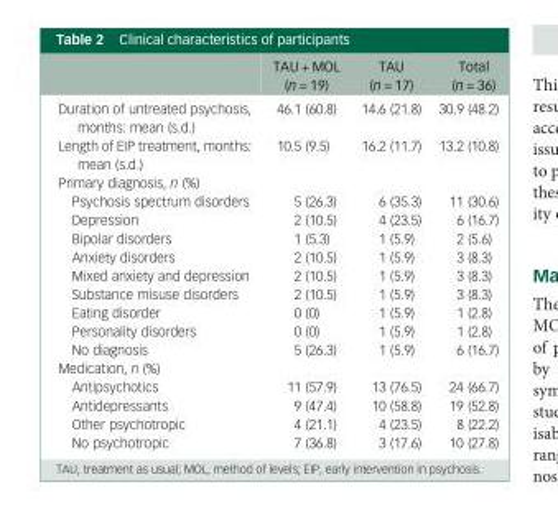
<table><thead><tr><td></td><td>TAU + MOL (n = 19)</td><td>TAU (n = 17)</td><td>Total (n = 36)</td></tr></thead><tbody><tr><td>Duration of untreated psychosis, months: mean (s.d.)</td><td>46.1 (60.8)</td><td>14.6 (21.8)</td><td>30.9 (48.2)</td></tr><tr><td>Length of EIP treatment, months: mean (s.d.)</td><td>10.5 (9.5)</td><td>16.2 (11.7)</td><td>13.2 (10.8)</td></tr><tr><td colspan="4">Primary diagnosis, n (%)</td></tr><tr><td>Psychosis spectrum disorders</td><td>5 (26.3)</td><td>6 (35.3)</td><td>11 (30.6)</td></tr><tr><td>Depression</td><td>2 (10.5)</td><td>4 (23.5)</td><td>6 (16.7)</td></tr><tr><td>Bipolar disorders</td><td>1 (5.3)</td><td>1 (5.9)</td><td>2 (5.6)</td></tr><tr><td>Anxiety disorders</td><td>2 (10.5)</td><td>1 (5.9)</td><td>3 (8.3)</td></tr><tr><td>Mixed anxiety and depression</td><td>2 (10.5)</td><td>1 (5.9)</td><td>3 (8.3)</td></tr><tr><td>Substance misuse disorders</td><td>2 (10.5)</td><td>1 (5.9)</td><td>3 (8.3)</td></tr><tr><td>Eating disorder</td><td>0 (0)</td><td>1 (5.9)</td><td>1 (2.8)</td></tr><tr><td>Personality disorders</td><td>0 (0)</td><td>1 (5.9)</td><td>1 (2.8)</td></tr><tr><td>No diagnosis</td><td>5 (26.3)</td><td>1 (5.9)</td><td>6 (16.7)</td></tr><tr><td colspan="4">Medication, n (%)</td></tr><tr><td>Antipsychotics</td><td>11 (57.9)</td><td>13 (76.5)</td><td>24 (66.7)</td></tr><tr><td>Antidepressants</td><td>9 (47.4)</td><td>10 (58.8)</td><td>19 (52.8)</td></tr><tr><td>Other psychotropic</td><td>4 (21.1)</td><td>4 (23.5)</td><td>8 (22.2)</td></tr><tr><td>No psychotropic</td><td>7 (36.8)</td><td>3 (17.6)</td><td>10 (27.8)</td></tr></tbody></table>